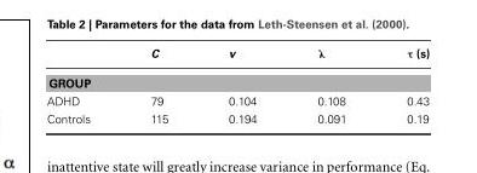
<table><thead><tr><td></td><td>C</td><td>v</td><td>λ</td><td>τ (s)</td></tr></thead><tbody><tr><td colspan="5">GROUP</td></tr><tr><td>ADHD</td><td>79</td><td>0.104</td><td>0.108</td><td>0.43</td></tr><tr><td>Controls</td><td>115</td><td>0.194</td><td>0.091</td><td>0.19</td></tr></tbody></table>